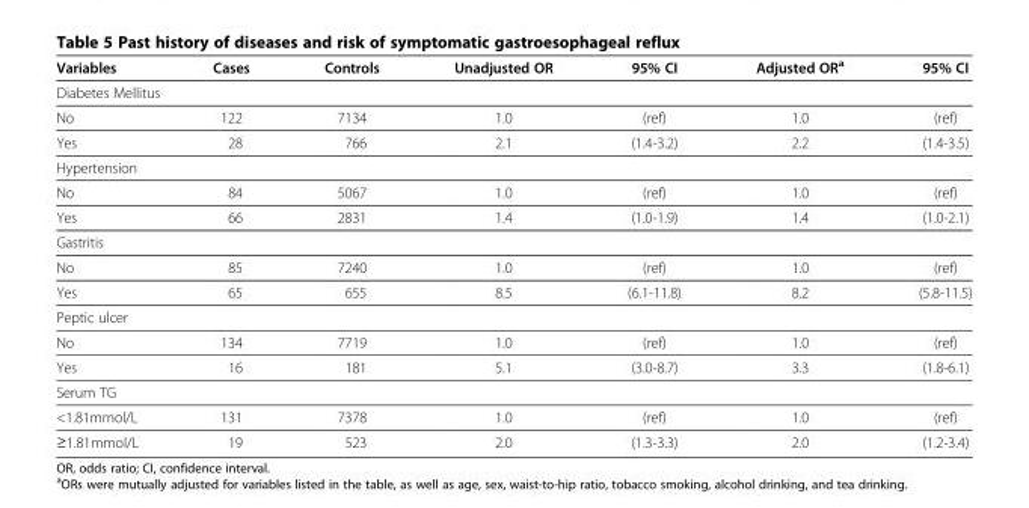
<table><thead><tr><td>Variables</td><td>Cases</td><td>Controls</td><td>Unadjusted OR</td><td>95% CI</td><td>Adjusted OR<sup>a</sup></td><td>95% CI</td></tr></thead><tbody><tr><td colspan="7">Diabetes Mellitus</td></tr><tr><td>No</td><td>122</td><td>7134</td><td>1.0</td><td>(ref)</td><td>1.0</td><td>(ref)</td></tr><tr><td>Yes</td><td>28</td><td>766</td><td>2.1</td><td>(1.4-3.2)</td><td>2.2</td><td>(1.4-3.5)</td></tr><tr><td colspan="7">Hypertension</td></tr><tr><td>No</td><td>84</td><td>5067</td><td>1.0</td><td>(ref)</td><td>1.0</td><td>(ref)</td></tr><tr><td>Yes</td><td>66</td><td>2831</td><td>1.4</td><td>(1.0-1.9)</td><td>1.4</td><td>(1.0-2.1)</td></tr><tr><td colspan="7">Gastritis</td></tr><tr><td>No</td><td>85</td><td>7240</td><td>1.0</td><td>(ref)</td><td>1.0</td><td>(ref)</td></tr><tr><td>Yes</td><td>65</td><td>655</td><td>8.5</td><td>(6.1-11.8)</td><td>8.2</td><td>(5.8-11.5)</td></tr><tr><td colspan="7">Peptic ulcer</td></tr><tr><td>No</td><td>134</td><td>7719</td><td>1.0</td><td>(ref)</td><td>1.0</td><td>(ref)</td></tr><tr><td>Yes</td><td>16</td><td>181</td><td>5.1</td><td>(3.0-8.7)</td><td>3.3</td><td>(1.8-6.1)</td></tr><tr><td colspan="7">Serum TG</td></tr><tr><td>&lt;1.81mmol/L</td><td>131</td><td>7378</td><td>1.0</td><td>(ref)</td><td>1.0</td><td>(ref)</td></tr><tr><td>≥1.81mmol/L</td><td>19</td><td>523</td><td>2.0</td><td>(1.3-3.3)</td><td>2.0</td><td>(1.2-3.4)</td></tr></tbody></table>